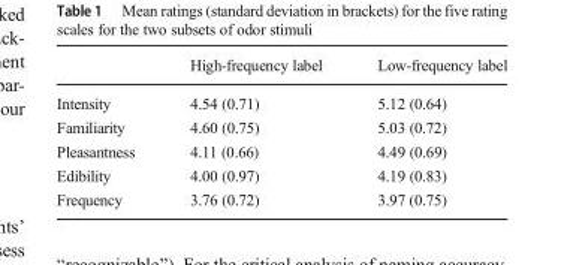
<table><thead><tr><td></td><td>High-frequency label</td><td>Low-frequency label</td></tr></thead><tbody><tr><td>Intensity</td><td>4.54 (0.71)</td><td>5.12 (0.64)</td></tr><tr><td>Familiarity</td><td>4.60 (0.75)</td><td>5.03 (0.72)</td></tr><tr><td>Pleasantness</td><td>4.11 (0.66)</td><td>4.49 (0.69)</td></tr><tr><td>Edibility</td><td>4.00 (0.97)</td><td>4.19 (0.83)</td></tr><tr><td>Frequency</td><td>3.76 (0.72)</td><td>3.97 (0.75)</td></tr></tbody></table>